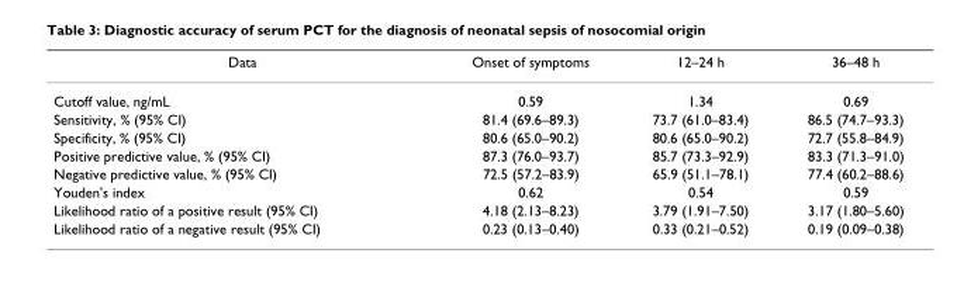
<table><thead><tr><td>Data</td><td>Onset of symptoms</td><td>12–24 h</td><td>36–48 h</td></tr></thead><tbody><tr><td>Cutoff value, ng/mL</td><td>0.59</td><td>1.34</td><td>0.69</td></tr><tr><td>Sensitivity, % (95% CI)</td><td>81.4 (69.6–89.3)</td><td>73.7 (61.0–83.4)</td><td>86.5 (74.7–93.3)</td></tr><tr><td>Specificity, % (95% CI)</td><td>80.6 (65.0–90.2)</td><td>80.6 (65.0–90.2)</td><td>72.7 (55.8–84.9)</td></tr><tr><td>Positive predictive value, % (95% CI)</td><td>87.3 (76.0–93.7)</td><td>85.7 (73.3–92.9)</td><td>83.3 (71.3–91.0)</td></tr><tr><td>Negative predictive value, % (95% CI)</td><td>72.5 (57.2–83.9)</td><td>65.9 (51.1–78.1)</td><td>77.4 (60.2–88.6)</td></tr><tr><td>Youden&#x27;s index</td><td>0.62</td><td>0.54</td><td>0.59</td></tr><tr><td>Likelihood ratio of a positive result (95% CI)</td><td>4.18 (2.13–8.23)</td><td>3.79 (1.91–7.50)</td><td>3.17 (1.80–5.60)</td></tr><tr><td>Likelihood ratio of a negative result (95% CI)</td><td>0.23 (0.13–0.40)</td><td>0.33 (0.21–0.52)</td><td>0.19 (0.09–0.38)</td></tr></tbody></table>